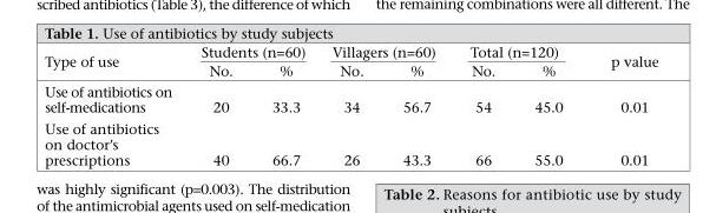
<table><thead><tr><td rowspan="2">Type of use</td><td colspan="2">Students (n=60)</td><td colspan="2">Villagers (n=60)</td><td colspan="2">Total (n=120)</td><td rowspan="2">p value</td></tr><tr><td>No.</td><td>%</td><td>No.</td><td>%</td><td>No.</td><td>%</td></tr></thead><tbody><tr><td>Use of antibiotics on self-medications</td><td>20</td><td>33.3</td><td>34</td><td>56.7</td><td>54</td><td>45.0</td><td>0.01</td></tr><tr><td>Use of antibiotics on doctor’s prescriptions</td><td>40</td><td>66.7</td><td>26</td><td>43.3</td><td>66</td><td>55.0</td><td>0.01</td></tr></tbody></table>